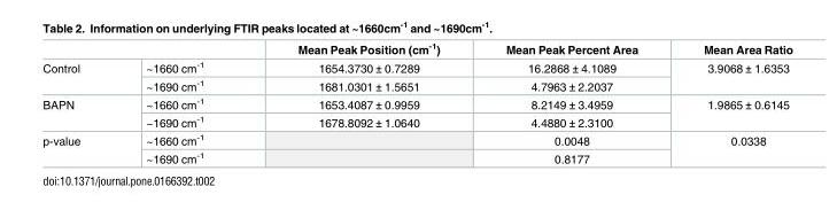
<table><thead><tr><td></td><td></td><td>Mean Peak Position (cm<sup>-1</sup>)</td><td>Mean Peak Percent Area</td><td>Mean Area Ratio</td></tr></thead><tbody><tr><td rowspan="2">Control</td><td>~1660 cm<sup>-1</sup></td><td>1654.3730 ± 0.7289</td><td>16.2868 ± 4.1089</td><td rowspan="2">3.9068 ± 1.6353</td></tr><tr><td>~1690 cm<sup>-1</sup></td><td>1681.0301 ± 1.5651</td><td>4.7963 ± 2.2037</td></tr><tr><td rowspan="2">BAPN</td><td>~1660 cm<sup>-1</sup></td><td>1653.4087 ± 0.9959</td><td>8.2149 ± 3.4959</td><td rowspan="2">1.9865 ± 0.6145</td></tr><tr><td>~1690 cm<sup>-1</sup></td><td>1678.8092 ± 1.0640</td><td>4.4880 ± 2.3100</td></tr><tr><td rowspan="2">p-value</td><td>~1660 cm<sup>-1</sup></td><td></td><td>0.0048</td><td rowspan="2">0.0338</td></tr><tr><td>~1690 cm<sup>-1</sup></td><td></td><td>0.8177</td></tr></tbody></table>